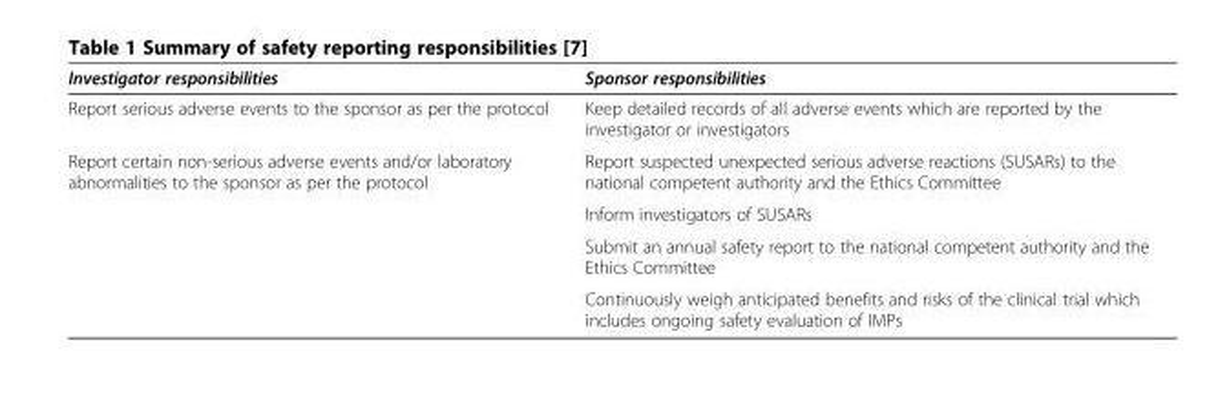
<table><thead><tr><td>Investigator responsibilities</td><td>Sponsor responsibilities</td></tr></thead><tbody><tr><td>Report serious adverse events to the sponsor as per the protocol</td><td>Keep detailed records of all adverse events which are reported by the investigator or investigators</td></tr><tr><td rowspan="4">Report certain non-serious adverse events and/or laboratory abnormalities to the sponsor as per the protocol</td><td>Report suspected unexpected serious adverse reactions (SUSARs) to the national competent authority and the Ethics Committee</td></tr><tr><td>Inform investigators of SUSARs</td></tr><tr><td>Submit an annual safety report to the national competent authority and the Ethics Committee</td></tr><tr><td>Continuously weigh anticipated benefits and risks of the clinical trial which includes ongoing safety evaluation of IMPs</td></tr></tbody></table>